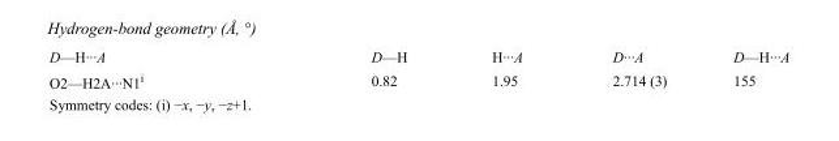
<table><tbody><tr><td>D—H···A</td><td>D—H</td><td>H···A</td><td>D···A</td><td>D—H···A</td></tr><tr><td>O2—H2A···N1<sup>i</sup></td><td>0.82</td><td>1.95</td><td>2.714 (3)</td><td>155</td></tr></tbody></table>